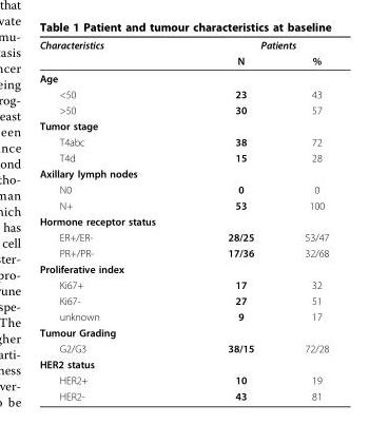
<table><thead><tr><td rowspan="2">Characteristics</td><td colspan="2">Patients</td></tr><tr><td>N</td><td>%</td></tr></thead><tbody><tr><td colspan="3">Age</td></tr><tr><td>&lt;50</td><td>23</td><td>43</td></tr><tr><td>&gt;50</td><td>30</td><td>57</td></tr><tr><td colspan="3">Tumor stage</td></tr><tr><td>T4abc</td><td>38</td><td>72</td></tr><tr><td>T4d</td><td>15</td><td>28</td></tr><tr><td colspan="3">Axillary lymph nodes</td></tr><tr><td>N0</td><td>0</td><td>0</td></tr><tr><td>N+</td><td>53</td><td>100</td></tr><tr><td colspan="3">Hormone receptor status</td></tr><tr><td>ER+/ER-</td><td>28/25</td><td>53/47</td></tr><tr><td>PR+/PR-</td><td>17/36</td><td>32/68</td></tr><tr><td colspan="3">Proliferative index</td></tr><tr><td>Ki67+</td><td>17</td><td>32</td></tr><tr><td>Ki67-</td><td>27</td><td>51</td></tr><tr><td>unknown</td><td>9</td><td>17</td></tr><tr><td colspan="3">Tumour Grading</td></tr><tr><td>G2/G3</td><td>38/15</td><td>72/28</td></tr><tr><td colspan="3">HER2 status</td></tr><tr><td>HER2+</td><td>10</td><td>19</td></tr><tr><td>HER2-</td><td>43</td><td>81</td></tr></tbody></table>